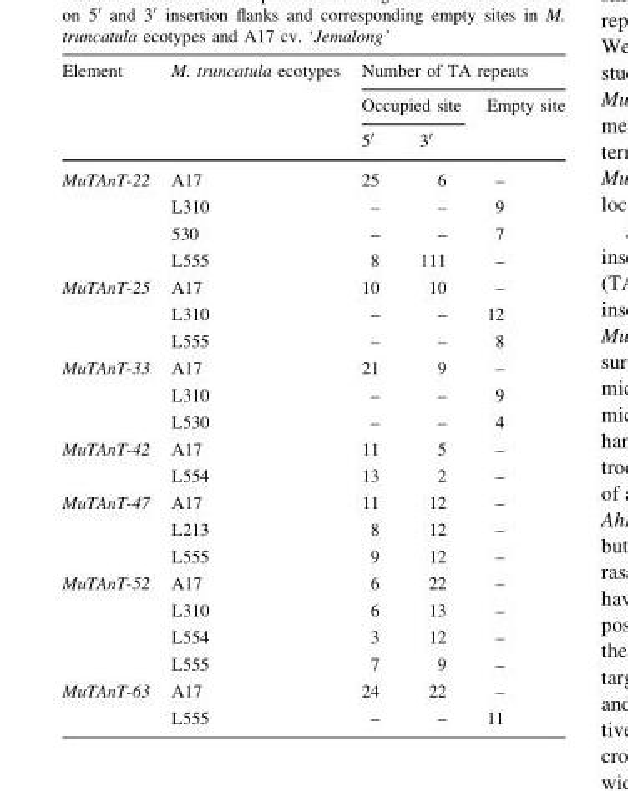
<table><thead><tr><td rowspan="3">Element</td><td rowspan="3">M. truncatula ecotypes</td><td colspan="3">Number of TA repeats</td></tr><tr><td colspan="2">Occupied site</td><td rowspan="2">Empty site</td></tr><tr><td>5′</td><td>3′</td></tr></thead><tbody><tr><td rowspan="4">MuTAnT-22</td><td>A17</td><td>25</td><td>6</td><td>–</td></tr><tr><td>L310</td><td>–</td><td>–</td><td>9</td></tr><tr><td>530</td><td>–</td><td>–</td><td>7</td></tr><tr><td>L555</td><td>8</td><td>111</td><td>–</td></tr><tr><td rowspan="3">MuTAnT-25</td><td>A17</td><td>10</td><td>10</td><td>–</td></tr><tr><td>L310</td><td>–</td><td>–</td><td>12</td></tr><tr><td>L555</td><td>–</td><td>–</td><td>8</td></tr><tr><td rowspan="3">MuTAnT-33</td><td>A17</td><td>21</td><td>9</td><td>–</td></tr><tr><td>L310</td><td>–</td><td>–</td><td>9</td></tr><tr><td>L530</td><td>–</td><td>–</td><td>4</td></tr><tr><td rowspan="2">MuTAnT-42</td><td>A17</td><td>11</td><td>5</td><td>–</td></tr><tr><td>L554</td><td>13</td><td>2</td><td>–</td></tr><tr><td rowspan="3">MuTAnT-47</td><td>A17</td><td>11</td><td>12</td><td>–</td></tr><tr><td>L213</td><td>8</td><td>12</td><td>–</td></tr><tr><td>L555</td><td>9</td><td>12</td><td>–</td></tr><tr><td rowspan="4">MuTAnT-52</td><td>A17</td><td>6</td><td>22</td><td>–</td></tr><tr><td>L310</td><td>6</td><td>13</td><td>–</td></tr><tr><td>L554</td><td>3</td><td>12</td><td>–</td></tr><tr><td>L555</td><td>7</td><td>9</td><td>–</td></tr><tr><td rowspan="2">MuTAnT-63</td><td>A17</td><td>24</td><td>22</td><td>–</td></tr><tr><td>L555</td><td>–</td><td>–</td><td>11</td></tr></tbody></table>